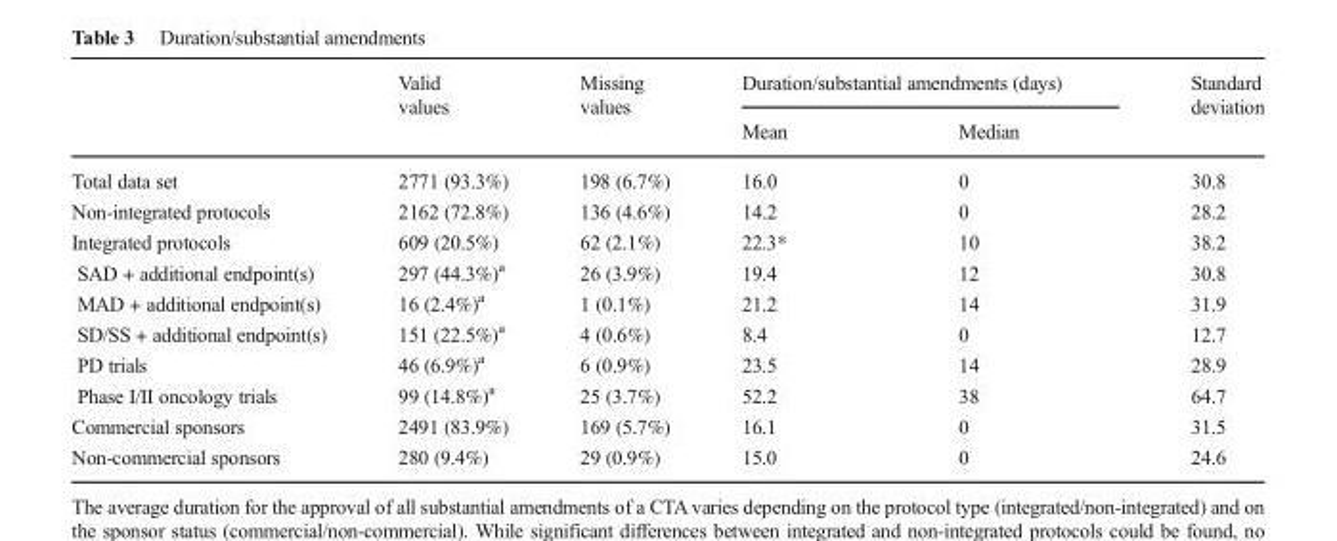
<table><thead><tr><td rowspan="2"></td><td rowspan="2">Valid values</td><td rowspan="2">Missing values</td><td colspan="2">Duration/substantial amendments (days)</td><td rowspan="2">Standard deviation</td></tr><tr><td>Mean</td><td>Median</td></tr></thead><tbody><tr><td>Total data set</td><td>2771 (93.3%)</td><td>198 (6.7%)</td><td>16.0</td><td>0</td><td>30.8</td></tr><tr><td>Non-integrated protocols</td><td>2162 (72.8%)</td><td>136 (4.6%)</td><td>14.2</td><td>0</td><td>28.2</td></tr><tr><td>Integrated protocols</td><td>609 (20.5%)</td><td>62 (2.1%)</td><td>22.3*</td><td>10</td><td>38.2</td></tr><tr><td>SAD + additional endpoint(s)</td><td>297 (44.3%)<sup>a</sup></td><td>26 (3.9%)</td><td>19.4</td><td>12</td><td>30.8</td></tr><tr><td>MAD + additional endpoint(s)</td><td>16 (2.4%)<sup>a</sup></td><td>1 (0.1%)</td><td>21.2</td><td>14</td><td>31.9</td></tr><tr><td>SD/SS + additional endpoint(s)</td><td>151 (22.5%)<sup>a</sup></td><td>4 (0.6%)</td><td>8.4</td><td>0</td><td>12.7</td></tr><tr><td>PD trials</td><td>46 (6.9%)<sup>a</sup></td><td>6 (0.9%)</td><td>23.5</td><td>14</td><td>28.9</td></tr><tr><td>Phase I/II oncology trials</td><td>99 (14.8%)<sup>a</sup></td><td>25 (3.7%)</td><td>52.2</td><td>38</td><td>64.7</td></tr><tr><td>Commercial sponsors</td><td>2491 (83.9%)</td><td>169 (5.7%)</td><td>16.1</td><td>0</td><td>31.5</td></tr><tr><td>Non-commercial sponsors</td><td>280 (9.4%)</td><td>29 (0.9%)</td><td>15.0</td><td>0</td><td>24.6</td></tr></tbody></table>